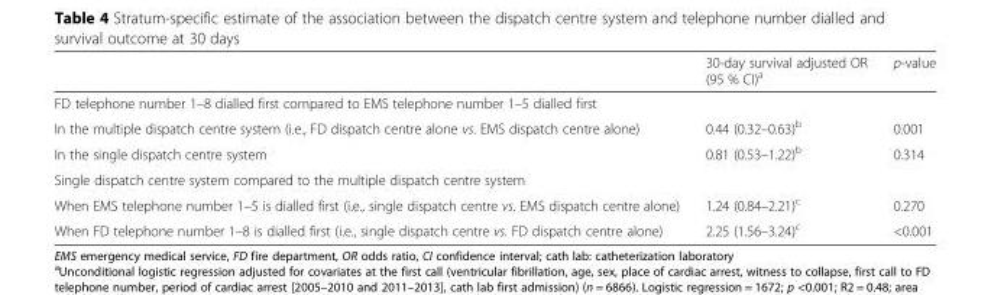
<table><thead><tr><td></td><td>30-day survival adjusted OR (95 % CI)<sup>a</sup></td><td>p-value</td></tr></thead><tbody><tr><td colspan="3">FD telephone number 1–8 dialled first compared to EMS telephone number 1–5 dialled first</td></tr><tr><td>In the multiple dispatch centre system (i.e., FD dispatch centre alone vs. EMS dispatch centre alone)</td><td>0.44 (0.32–0.63)<sup>b</sup></td><td>0.001</td></tr><tr><td>In the single dispatch centre system</td><td>0.81 (0.53–1.22)<sup>b</sup></td><td>0.314</td></tr><tr><td colspan="3">Single dispatch centre system compared to the multiple dispatch centre system</td></tr><tr><td>When EMS telephone number 1–5 is dialled first (i.e., single dispatch centre vs. EMS dispatch centre alone)</td><td>1.24 (0.84–2.21)<sup>c</sup></td><td>0.270</td></tr><tr><td>When FD telephone number 1–8 is dialled first (i.e., single dispatch centre vs. FD dispatch centre alone)</td><td>2.25 (1.56–3.24)<sup>c</sup></td><td>&lt;0.001</td></tr></tbody></table>